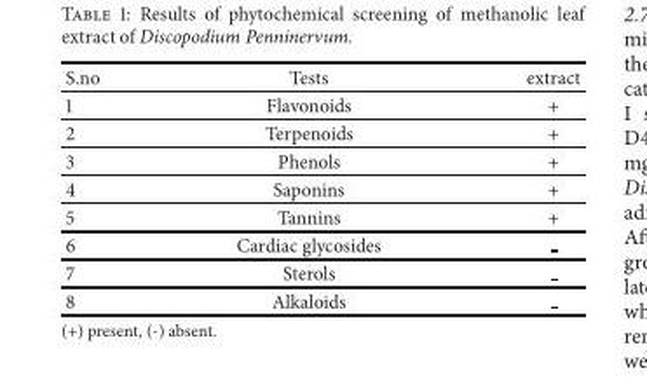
<table><thead><tr><td>S.no</td><td>Tests</td><td>extract</td></tr></thead><tbody><tr><td>1</td><td>Flavonoids</td><td>+</td></tr><tr><td>2</td><td>Terpenoids</td><td>+</td></tr><tr><td>3</td><td>Phenols</td><td>+</td></tr><tr><td>4</td><td>Saponins</td><td>+</td></tr><tr><td>5</td><td>Tannins</td><td>+</td></tr><tr><td>6</td><td>Cardiac glycosides</td><td></td></tr><tr><td>7</td><td>Sterols</td><td></td></tr><tr><td>8</td><td>Alkaloids</td><td></td></tr></tbody></table>